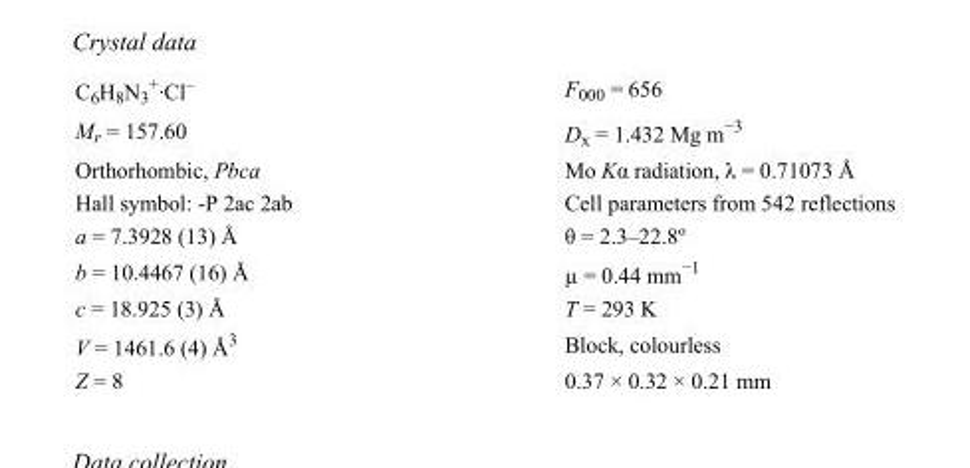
<table><tbody><tr><td>C<sub>6</sub>H<sub>8</sub>N<sub>3</sub> <sup>+</sup>·Cl<sup>–</sup></td><td>F000 = 656</td></tr><tr><td>M<sub>r</sub> = 157.60</td><td>D<sub>x</sub> = 1.432 Mg m<sup>−3</sup></td></tr><tr><td>Orthorhombic, Pbca</td><td>Mo Kα radiation, λ = 0.71073 Å</td></tr><tr><td>Hall symbol: -P 2ac 2ab</td><td>Cell parameters from 542 reflections</td></tr><tr><td>a = 7.3928 (13) Å</td><td>θ = 2.3–22.8º</td></tr><tr><td>b = 10.4467 (16) Å</td><td>µ = 0.44 mm<sup>−1</sup></td></tr><tr><td>c = 18.925 (3) Å</td><td>T = 293 K</td></tr><tr><td>V = 1461.6 (4) Å<sup>3</sup></td><td>Block, colourless</td></tr><tr><td>Z = 8</td><td>0.37 × 0.32 × 0.21 mm</td></tr></tbody></table>